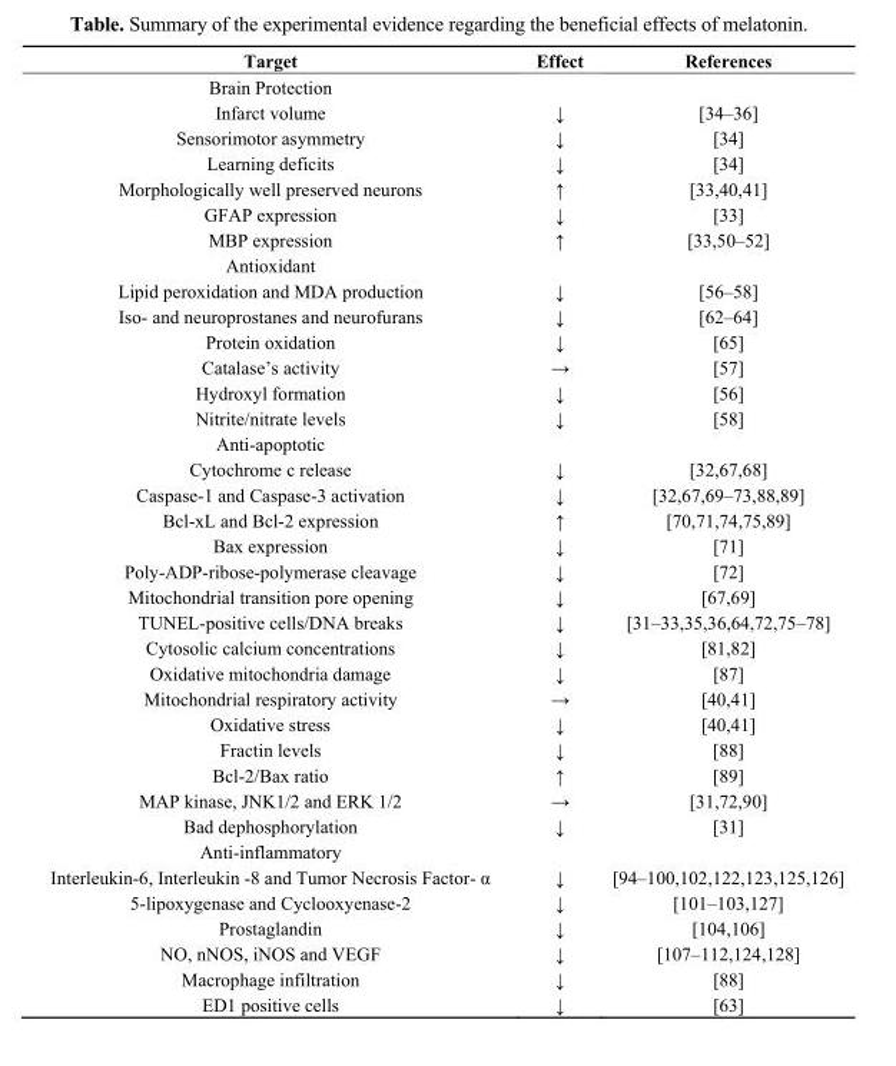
<table><thead><tr><td>Target</td><td>Effect</td><td>References</td></tr></thead><tbody><tr><td colspan="3">Brain Protection</td></tr><tr><td>Infarct volume</td><td>↓</td><td>[34–36]</td></tr><tr><td>Sensorimotor asymmetry</td><td>↓</td><td>[34]</td></tr><tr><td>Learning deficits</td><td>↓</td><td>[34]</td></tr><tr><td>Morphologically well preserved neurons</td><td>↑</td><td>[33,40,41]</td></tr><tr><td>GFAP expression</td><td>↓</td><td>[33]</td></tr><tr><td>MBP expression</td><td>↑</td><td>[33,50–52]</td></tr><tr><td colspan="3">Antioxidant</td></tr><tr><td>Lipid peroxidation and MDA production</td><td>↓</td><td>[56–58]</td></tr><tr><td>Iso- and neuroprostanes and neurofurans</td><td>↓</td><td>[62–64]</td></tr><tr><td>Protein oxidation</td><td>↓</td><td>[65]</td></tr><tr><td>Catalase’s activity</td><td>→</td><td>[57]</td></tr><tr><td>Hydroxyl formation</td><td>↓</td><td>[56]</td></tr><tr><td>Nitrite/nitrate levels</td><td>↓</td><td>[58]</td></tr><tr><td colspan="3">Anti-apoptotic</td></tr><tr><td>Cytochrome c release</td><td>↓</td><td>[32,67,68]</td></tr><tr><td>Caspase-1 and Caspase-3 activation</td><td>↓</td><td>[32,67,69–73,88,89]</td></tr><tr><td>Bcl-xL and Bcl-2 expression</td><td>↑</td><td>[70,71,74,75,89]</td></tr><tr><td>Bax expression</td><td>↓</td><td>[71]</td></tr><tr><td>Poly-ADP-ribose-polymerase cleavage</td><td>↓</td><td>[72]</td></tr><tr><td>Mitochondrial transition pore opening</td><td>↓</td><td>[67,69]</td></tr><tr><td>TUNEL-positive cells/DNA breaks</td><td>↓</td><td>[31–33,35,36,64,72,75–78]</td></tr><tr><td>Cytosolic calcium concentrations</td><td>↓</td><td>[81,82]</td></tr><tr><td>Oxidative mitochondria damage</td><td>↓</td><td>[87]</td></tr><tr><td>Mitochondrial respiratory activity</td><td>→</td><td>[40,41]</td></tr><tr><td>Oxidative stress</td><td>↓</td><td>[40,41]</td></tr><tr><td>Fractin levels</td><td>↓</td><td>[88]</td></tr><tr><td>Bcl-2/Bax ratio</td><td>↑</td><td>[89]</td></tr><tr><td>MAP kinase, JNK1/2 and ERK 1/2</td><td>→</td><td>[31,72,90]</td></tr><tr><td>Bad dephosphorylation</td><td>↓</td><td>[31]</td></tr><tr><td colspan="3">Anti-inflammatory</td></tr><tr><td>Interleukin-6, Interleukin -8 and Tumor Necrosis Factor- α</td><td>↓</td><td>[94–100,102,122,123,125,126]</td></tr><tr><td>5-lipoxygenase and Cyclooxyenase-2</td><td>↓</td><td>[101–103,127]</td></tr><tr><td>Prostaglandin</td><td>↓</td><td>[104,106]</td></tr><tr><td>NO, nNOS, iNOS and VEGF</td><td>↓</td><td>[107–112,124,128]</td></tr><tr><td>Macrophage infiltration</td><td>↓</td><td>[88]</td></tr><tr><td>ED1 positive cells</td><td>↓</td><td>[63]</td></tr></tbody></table>